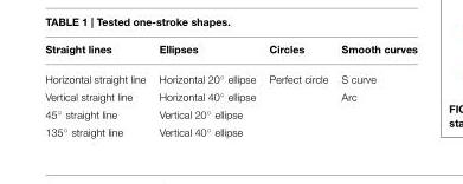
<table><thead><tr><td>Straight lines</td><td>Ellipses</td><td>Circles</td><td>Smooth curves</td></tr></thead><tbody><tr><td>Horizontal straight line</td><td>Horizontal 20◦ ellipse</td><td>Perfect circle</td><td>S curve</td></tr><tr><td>Vertical straight line</td><td>Horizontal 40◦ ellipse</td><td></td><td>Arc</td></tr><tr><td>45◦ straight line</td><td>Vertical 20◦ ellipse</td><td></td><td></td></tr><tr><td>135◦ straight line</td><td>Vertical 40◦ ellipse</td><td></td><td></td></tr></tbody></table>